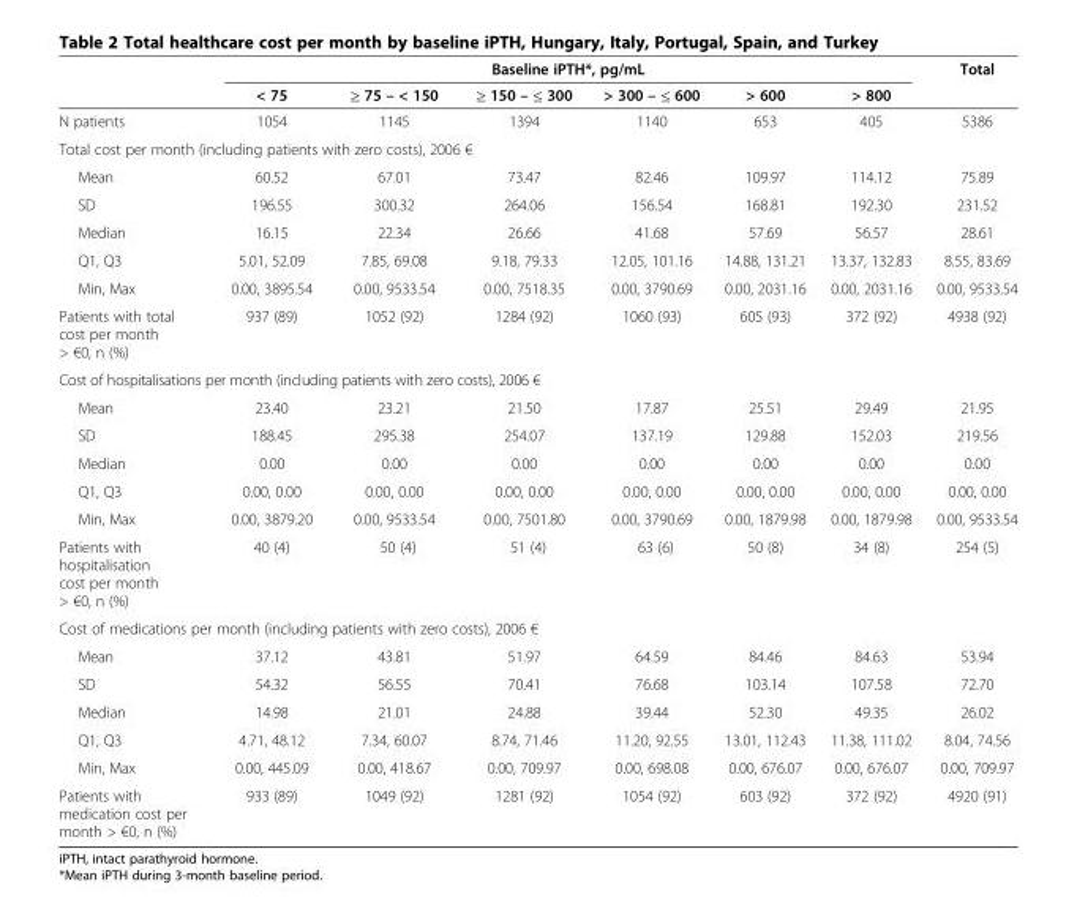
<table><thead><tr><td rowspan="2"></td><td colspan="6">Baseline iPTH*, pg/mL</td><td rowspan="2">Total</td></tr><tr><td>&lt; 75</td><td>≥ 75 – &lt; 150</td><td>≥ 150 – ≤ 300</td><td>&gt; 300 – ≤ 600</td><td>&gt; 600</td><td>&gt; 800</td></tr></thead><tbody><tr><td>N patients</td><td>1054</td><td>1145</td><td>1394</td><td>1140</td><td>653</td><td>405</td><td>5386</td></tr><tr><td colspan="8">Total cost per month (including patients with zero costs), 2006 €</td></tr><tr><td>Mean</td><td>60.52</td><td>67.01</td><td>73.47</td><td>82.46</td><td>109.97</td><td>114.12</td><td>75.89</td></tr><tr><td>SD</td><td>196.55</td><td>300.32</td><td>264.06</td><td>156.54</td><td>168.81</td><td>192.30</td><td>231.52</td></tr><tr><td>Median</td><td>16.15</td><td>22.34</td><td>26.66</td><td>41.68</td><td>57.69</td><td>56.57</td><td>28.61</td></tr><tr><td>Q1, Q3</td><td>5.01, 52.09</td><td>7.85, 69.08</td><td>9.18, 79.33</td><td>12.05, 101.16</td><td>14.88, 131.21</td><td>13.37, 132.83</td><td>8.55, 83.69</td></tr><tr><td>Min, Max</td><td>0.00, 3895.54</td><td>0.00, 9533.54</td><td>0.00, 7518.35</td><td>0.00, 3790.69</td><td>0.00, 2031.16</td><td>0.00, 2031.16</td><td>0.00, 9533.54</td></tr><tr><td>Patients with total cost per month &gt; €0, n (%)</td><td>937 (89)</td><td>1052 (92)</td><td>1284 (92)</td><td>1060 (93)</td><td>605 (93)</td><td>372 (92)</td><td>4938 (92)</td></tr><tr><td colspan="8">Cost of hospitalisations per month (including patients with zero costs), 2006 €</td></tr><tr><td>Mean</td><td>23.40</td><td>23.21</td><td>21.50</td><td>17.87</td><td>25.51</td><td>29.49</td><td>21.95</td></tr><tr><td>SD</td><td>188.45</td><td>295.38</td><td>254.07</td><td>137.19</td><td>129.88</td><td>152.03</td><td>219.56</td></tr><tr><td>Median</td><td>0.00</td><td>0.00</td><td>0.00</td><td>0.00</td><td>0.00</td><td>0.00</td><td>0.00</td></tr><tr><td>Q1, Q3</td><td>0.00, 0.00</td><td>0.00, 0.00</td><td>0.00, 0.00</td><td>0.00, 0.00</td><td>0.00, 0.00</td><td>0.00, 0.00</td><td>0.00, 0.00</td></tr><tr><td>Min, Max</td><td>0.00, 3879.20</td><td>0.00, 9533.54</td><td>0.00, 7501.80</td><td>0.00, 3790.69</td><td>0.00, 1879.98</td><td>0.00, 1879.98</td><td>0.00, 9533.54</td></tr><tr><td>Patients with hospitalisation cost per month &gt; €0, n (%)</td><td>40 (4)</td><td>50 (4)</td><td>51 (4)</td><td>63 (6)</td><td>50 (8)</td><td>34 (8)</td><td>254 (5)</td></tr><tr><td colspan="8">Cost of medications per month (including patients with zero costs), 2006 €</td></tr><tr><td>Mean</td><td>37.12</td><td>43.81</td><td>51.97</td><td>64.59</td><td>84.46</td><td>84.63</td><td>53.94</td></tr><tr><td>SD</td><td>54.32</td><td>56.55</td><td>70.41</td><td>76.68</td><td>103.14</td><td>107.58</td><td>72.70</td></tr><tr><td>Median</td><td>14.98</td><td>21.01</td><td>24.88</td><td>39.44</td><td>52.30</td><td>49.35</td><td>26.02</td></tr><tr><td>Q1, Q3</td><td>4.71, 48.12</td><td>7.34, 60.07</td><td>8.74, 71.46</td><td>11.20, 92.55</td><td>13.01, 112.43</td><td>11.38, 111.02</td><td>8.04, 74.56</td></tr><tr><td>Min, Max</td><td>0.00, 445.09</td><td>0.00, 418.67</td><td>0.00, 709.97</td><td>0.00, 698.08</td><td>0.00, 676.07</td><td>0.00, 676.07</td><td>0.00, 709.97</td></tr><tr><td>Patients with medication cost per month &gt; €0, n (%)</td><td>933 (89)</td><td>1049 (92)</td><td>1281 (92)</td><td>1054 (92)</td><td>603 (92)</td><td>372 (92)</td><td>4920 (91)</td></tr></tbody></table>